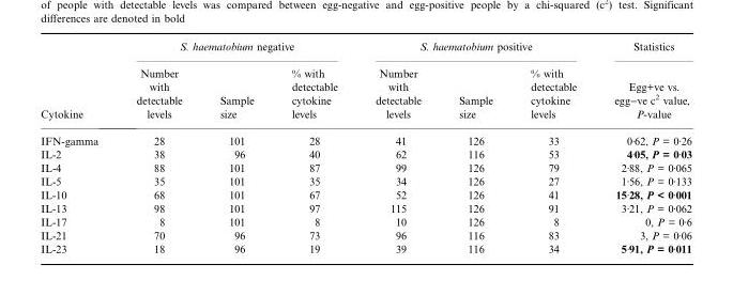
<table><thead><tr><td rowspan="2">Cytokine</td><td colspan="3">S. haematobium negative</td><td colspan="3">S. haematobium positive</td><td rowspan="2">Statistics Egg+ve vs. egg−ve c<sup>2</sup> value, P-value</td></tr><tr><td>Number with detectable levels</td><td>Sample size</td><td>% with detectable cytokine levels</td><td>Number with detectable levels</td><td>Sample size</td><td>% with detectable cytokine levels</td></tr></thead><tbody><tr><td>IFN-gamma</td><td>28</td><td>101</td><td>28</td><td>41</td><td>126</td><td>33</td><td>0Æ62, P = 0Æ26</td></tr><tr><td>IL-2</td><td>38</td><td>96</td><td>40</td><td>62</td><td>116</td><td>53</td><td>4Æ05, P = 0Æ03</td></tr><tr><td>IL-4</td><td>88</td><td>101</td><td>87</td><td>99</td><td>126</td><td>79</td><td>2Æ88, P = 0Æ065</td></tr><tr><td>IL-5</td><td>35</td><td>101</td><td>35</td><td>34</td><td>126</td><td>27</td><td>1Æ56, P = 0Æ133</td></tr><tr><td>IL-10</td><td>68</td><td>101</td><td>67</td><td>52</td><td>126</td><td>41</td><td>15Æ28, P &lt; 0Æ001</td></tr><tr><td>IL-13</td><td>98</td><td>101</td><td>97</td><td>115</td><td>126</td><td>91</td><td>3Æ21, P = 0Æ062</td></tr><tr><td>IL-17</td><td>8</td><td>101</td><td>8</td><td>10</td><td>126</td><td>8</td><td>0, P = 0Æ6</td></tr><tr><td>IL-21</td><td>70</td><td>96</td><td>73</td><td>96</td><td>116</td><td>83</td><td>3, P = 0Æ06</td></tr><tr><td>IL-23</td><td>18</td><td>96</td><td>19</td><td>39</td><td>116</td><td>34</td><td>5Æ91, P = 0Æ011</td></tr></tbody></table>